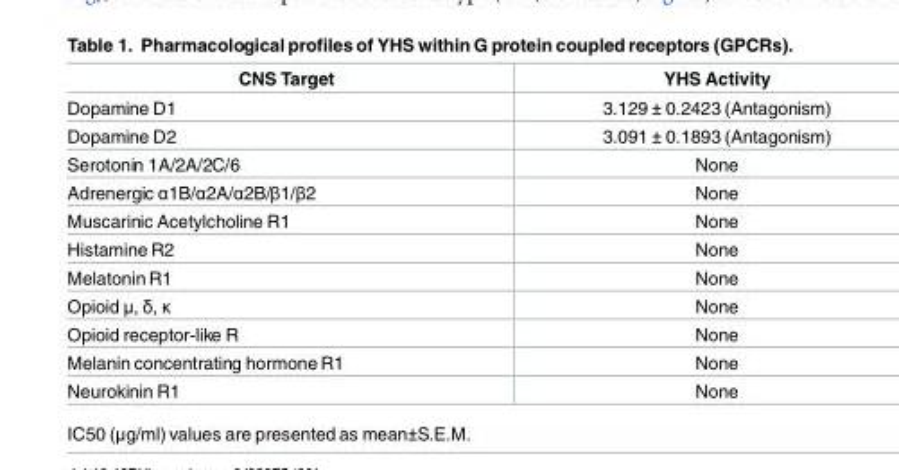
<table><thead><tr><td>CNS Target</td><td>YHS Activity</td></tr></thead><tbody><tr><td>Dopamine D1</td><td>3.129 ± 0.2423 (Antagonism)</td></tr><tr><td>Dopamine D2</td><td>3.091 ± 0.1893 (Antagonism)</td></tr><tr><td>Serotonin 1A/2A/2C/6</td><td>None</td></tr><tr><td>Adrenergic α1B/α2A/α2B/β1/β2</td><td>None</td></tr><tr><td>Muscarinic Acetylcholine R1</td><td>None</td></tr><tr><td>Histamine R2</td><td>None</td></tr><tr><td>Melatonin R1</td><td>None</td></tr><tr><td>Opioid μ, δ, κ</td><td>None</td></tr><tr><td>Opioid receptor-like R</td><td>None</td></tr><tr><td>Melanin concentrating hormone R1</td><td>None</td></tr><tr><td>Neurokinin R1</td><td>None</td></tr></tbody></table>